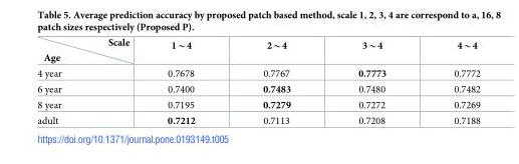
<table><thead><tr><td>Age Scale</td><td>1*4</td><td>2*4</td><td>3*4</td><td>4*4</td></tr></thead><tbody><tr><td>4 year</td><td>0.7678</td><td>0.7767</td><td>0.7773</td><td>0.7772</td></tr><tr><td>6 year</td><td>0.7400</td><td>0.7483</td><td>0.7480</td><td>0.7482</td></tr><tr><td>8 year</td><td>0.7195</td><td>0.7279</td><td>0.7272</td><td>0.7269</td></tr><tr><td>adult</td><td>0.7212</td><td>0.7113</td><td>0.7208</td><td>0.7188</td></tr></tbody></table>